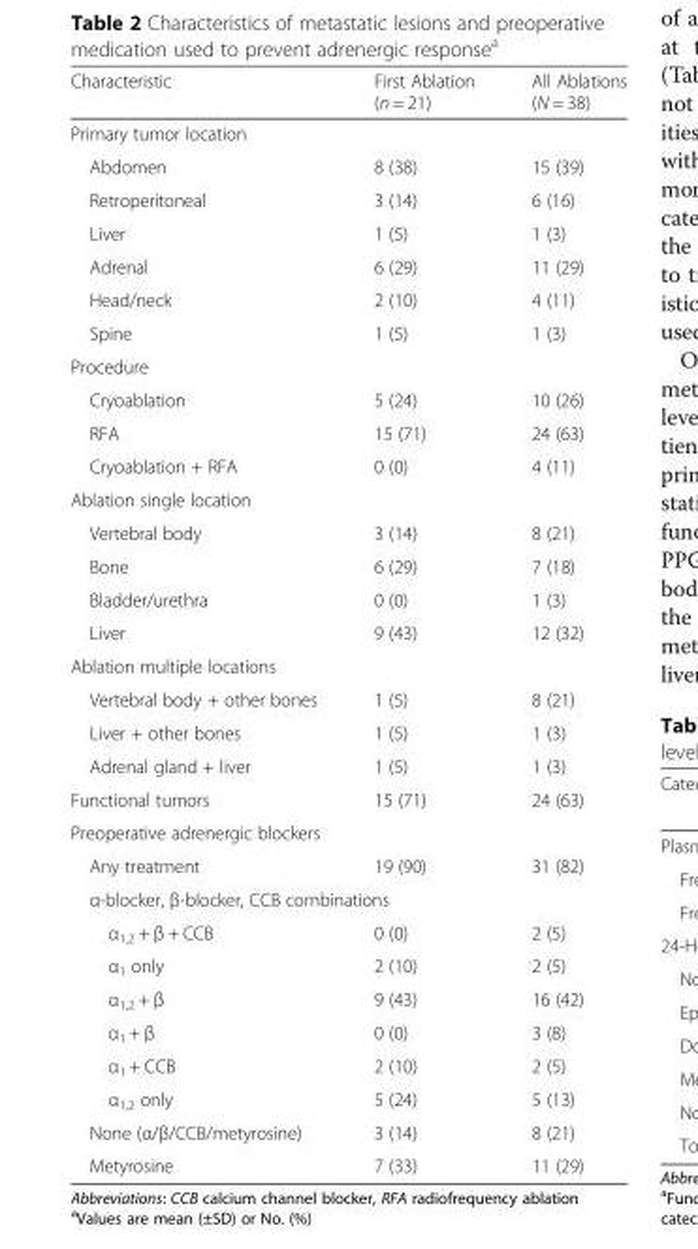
<table><thead><tr><td>Characteristic</td><td>First Ablation (n = 21)</td><td>All Ablations (N = 38)</td></tr></thead><tbody><tr><td colspan="3">Primary tumor location</td></tr><tr><td>Abdomen</td><td>8 (38)</td><td>15 (39)</td></tr><tr><td>Retroperitoneal</td><td>3 (14)</td><td>6 (16)</td></tr><tr><td>Liver</td><td>1 (5)</td><td>1 (3)</td></tr><tr><td>Adrenal</td><td>6 (29)</td><td>11 (29)</td></tr><tr><td>Head/neck</td><td>2 (10)</td><td>4 (11)</td></tr><tr><td>Spine</td><td>1 (5)</td><td>1 (3)</td></tr><tr><td colspan="3">Procedure</td></tr><tr><td>Cryoablation</td><td>5 (24)</td><td>10 (26)</td></tr><tr><td>RFA</td><td>15 (71)</td><td>24 (63)</td></tr><tr><td>Cryoablation + RFA</td><td>0 (0)</td><td>4 (11)</td></tr><tr><td colspan="3">Ablation single location</td></tr><tr><td>Vertebral body</td><td>3 (14)</td><td>8 (21)</td></tr><tr><td>Bone</td><td>6 (29)</td><td>7 (18)</td></tr><tr><td>Bladder/urethra</td><td>0 (0)</td><td>1 (3)</td></tr><tr><td>Liver</td><td>9 (43)</td><td>12 (32)</td></tr><tr><td colspan="3">Ablation multiple locations</td></tr><tr><td>Vertebral body + other bones</td><td>1 (5)</td><td>8 (21)</td></tr><tr><td>Liver + other bones</td><td>1 (5)</td><td>1 (3)</td></tr><tr><td>Adrenal gland + liver</td><td>1 (5)</td><td>1 (3)</td></tr><tr><td>Functional tumors</td><td>15 (71)</td><td>24 (63)</td></tr><tr><td colspan="3">Preoperative adrenergic blockers</td></tr><tr><td>Any treatment</td><td>19 (90)</td><td>31 (82)</td></tr><tr><td colspan="3">α-blocker, β-blocker, CCB combinations</td></tr><tr><td>α<sub>1,2</sub> + β + CCB</td><td>0 (0)</td><td>2 (5)</td></tr><tr><td>α<sub>1</sub> only</td><td>2 (10)</td><td>2 (5)</td></tr><tr><td>α<sub>1,2</sub> + β</td><td>9 (43)</td><td>16 (42)</td></tr><tr><td>α<sub>1</sub> + β</td><td>0 (0)</td><td>3 (8)</td></tr><tr><td>α<sub>1</sub> + CCB</td><td>2 (10)</td><td>2 (5)</td></tr><tr><td>α<sub>1,2</sub> only</td><td>5 (24)</td><td>5 (13)</td></tr><tr><td>None (α/β/CCB/metyrosine)</td><td>3 (14)</td><td>8 (21)</td></tr><tr><td>Metyrosine</td><td>7 (33)</td><td>11 (29)</td></tr></tbody></table>